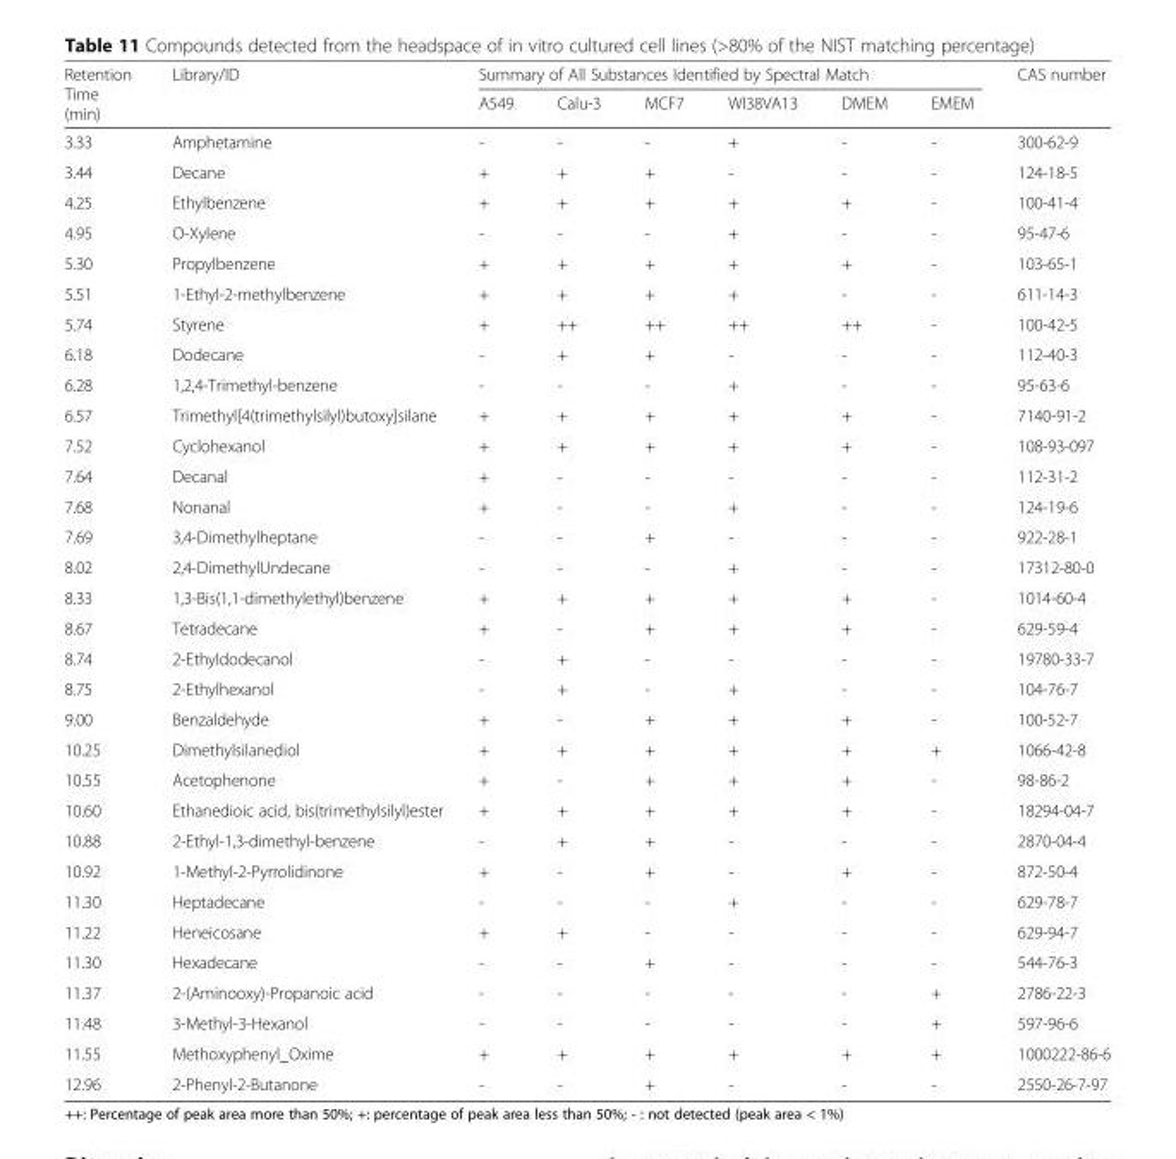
<table><thead><tr><td rowspan="2">Retention Time (min)</td><td rowspan="2">Library/ID</td><td colspan="6">Summary of All Substances Identified by Spectral Match</td><td rowspan="2">CAS number</td></tr><tr><td>A549</td><td>Calu-3</td><td>MCF7</td><td>WI38VA13</td><td>DMEM</td><td>EMEM</td></tr></thead><tbody><tr><td>3.33</td><td>Amphetamine</td><td>-</td><td>-</td><td>-</td><td>+</td><td>-</td><td>-</td><td>300-62-9</td></tr><tr><td>3.44</td><td>Decane</td><td>+</td><td>+</td><td>+</td><td>-</td><td>-</td><td>-</td><td>124-18-5</td></tr><tr><td>4.25</td><td>Ethylbenzene</td><td>+</td><td>+</td><td>+</td><td>+</td><td>+</td><td>-</td><td>100-41-4</td></tr><tr><td>4.95</td><td>O-Xylene</td><td>-</td><td>-</td><td>-</td><td>+</td><td>-</td><td>-</td><td>95-47-6</td></tr><tr><td>5.30</td><td>Propylbenzene</td><td>+</td><td>+</td><td>+</td><td>+</td><td>+</td><td>-</td><td>103-65-1</td></tr><tr><td>5.51</td><td>1-Ethyl-2-methylbenzene</td><td>+</td><td>+</td><td>+</td><td>+</td><td>-</td><td>-</td><td>611-14-3</td></tr><tr><td>5.74</td><td>Styrene</td><td>+</td><td>++</td><td>++</td><td>++</td><td>++</td><td>-</td><td>100-42-5</td></tr><tr><td>6.18</td><td>Dodecane</td><td>-</td><td>+</td><td>+</td><td>-</td><td>-</td><td>-</td><td>112-40-3</td></tr><tr><td>6.28</td><td>1,2,4-Trimethyl-benzene</td><td>-</td><td>-</td><td>-</td><td>+</td><td>-</td><td>-</td><td>95-63-6</td></tr><tr><td>6.57</td><td>Trimethyl[4(trimethylsilyl)butoxy]silane</td><td>+</td><td>+</td><td>+</td><td>+</td><td>+</td><td>-</td><td>7140-91-2</td></tr><tr><td>7.52</td><td>Cyclohexanol</td><td>+</td><td>+</td><td>+</td><td>+</td><td>+</td><td>-</td><td>108-93-097</td></tr><tr><td>7.64</td><td>Decanal</td><td>+</td><td>-</td><td>-</td><td>-</td><td>-</td><td>-</td><td>112-31-2</td></tr><tr><td>7.68</td><td>Nonanal</td><td>+</td><td>-</td><td>-</td><td>+</td><td>-</td><td>-</td><td>124-19-6</td></tr><tr><td>7.69</td><td>3,4-Dimethylheptane</td><td>-</td><td>-</td><td>+</td><td>-</td><td>-</td><td>-</td><td>922-28-1</td></tr><tr><td>8.02</td><td>2,4-DimethylUndecane</td><td>-</td><td>-</td><td>-</td><td>+</td><td>-</td><td>-</td><td>17312-80-0</td></tr><tr><td>8.33</td><td>1,3-Bis(1,1-dimethylethyl)benzene</td><td>+</td><td>+</td><td>+</td><td>+</td><td>+</td><td>-</td><td>1014-60-4</td></tr><tr><td>8.67</td><td>Tetradecane</td><td>+</td><td>-</td><td>+</td><td>+</td><td>+</td><td>-</td><td>629-59-4</td></tr><tr><td>8.74</td><td>2-Ethyldodecanol</td><td>-</td><td>+</td><td>-</td><td>-</td><td>-</td><td>-</td><td>19780-33-7</td></tr><tr><td>8.75</td><td>2-Ethylhexanol</td><td>-</td><td>+</td><td>-</td><td>+</td><td>-</td><td>-</td><td>104-76-7</td></tr><tr><td>9.00</td><td>Benzaldehyde</td><td>+</td><td>-</td><td>+</td><td>+</td><td>+</td><td>-</td><td>100-52-7</td></tr><tr><td>10.25</td><td>Dimethylsilanediol</td><td>+</td><td>+</td><td>+</td><td>+</td><td>+</td><td>+</td><td>1066-42-8</td></tr><tr><td>10.55</td><td>Acetophenone</td><td>+</td><td>-</td><td>+</td><td>+</td><td>+</td><td>-</td><td>98-86-2</td></tr><tr><td>10.60</td><td>Ethanedioic acid, bis(trimethylsilyl)ester</td><td>+</td><td>+</td><td>+</td><td>+</td><td>+</td><td>-</td><td>18294-04-7</td></tr><tr><td>10.88</td><td>2-Ethyl-1,3-dimethyl-benzene</td><td>-</td><td>+</td><td>+</td><td>-</td><td>-</td><td>-</td><td>2870-04-4</td></tr><tr><td>10.92</td><td>1-Methyl-2-Pyrrolidinone</td><td>+</td><td>-</td><td>+</td><td>-</td><td>+</td><td>-</td><td>872-50-4</td></tr><tr><td>11.30</td><td>Heptadecane</td><td>-</td><td>-</td><td>-</td><td>+</td><td>-</td><td>-</td><td>629-78-7</td></tr><tr><td>11.22</td><td>Heneicosane</td><td>+</td><td>+</td><td>-</td><td>-</td><td>-</td><td>-</td><td>629-94-7</td></tr><tr><td>11.30</td><td>Hexadecane</td><td>-</td><td>-</td><td>+</td><td>-</td><td>-</td><td>-</td><td>544-76-3</td></tr><tr><td>11.37</td><td>2-(Aminooxy)-Propanoic acid</td><td>-</td><td>-</td><td>-</td><td>-</td><td>-</td><td>+</td><td>2786-22-3</td></tr><tr><td>11.48</td><td>3-Methyl-3-Hexanol</td><td>-</td><td>-</td><td>-</td><td>-</td><td>-</td><td>+</td><td>597-96-6</td></tr><tr><td>11.55</td><td>Methoxyphenyl_Oxime</td><td>+</td><td>+</td><td>+</td><td>+</td><td>+</td><td>+</td><td>1000222-86-6</td></tr><tr><td>12.96</td><td>2-Phenyl-2-Butanone</td><td>-</td><td>-</td><td>+</td><td>-</td><td>-</td><td>-</td><td>2550-26-7-97</td></tr></tbody></table>